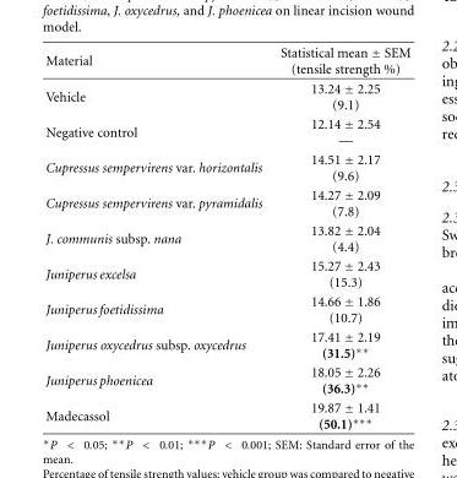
<table><thead><tr><td>Material</td><td>Statistical mean ± SEM (tensile strength %)</td></tr></thead><tbody><tr><td>Vehicle</td><td>13.24 ± 2.25 (9.1)</td></tr><tr><td>Negative control</td><td>12.14 ± 2.54 —</td></tr><tr><td>Cupressus sempervirens var. horizontalis</td><td>14.51 ± 2.17 (9.6)</td></tr><tr><td>Cupressus sempervirens var. pyramidalis</td><td>14.27 ± 2.09 (7.8)</td></tr><tr><td>J. communis subsp. nana</td><td>13.82 ± 2.04 (4.4)</td></tr><tr><td>Juniperus excelsa</td><td>15.27 ± 2.43 (15.3)</td></tr><tr><td>Juniperus foetidissima</td><td>14.66 ± 1.86 (10.7)</td></tr><tr><td>Juniperus oxycedrus subsp. oxycedrus</td><td>17.41 ± 2.19 (31.5)∗∗</td></tr><tr><td>Juniperus phoenicea</td><td>18.05 ± 2.26 (36.3)∗∗</td></tr><tr><td>Madecassol</td><td>19.87 ± 1.41 (50.1)∗∗∗</td></tr></tbody></table>